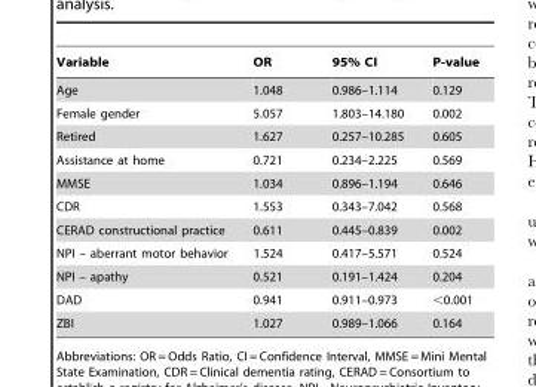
<table><thead><tr><td>Variable</td><td>OR</td><td>95% CI</td><td>P-value</td></tr></thead><tbody><tr><td>Age</td><td>1.048</td><td>0.986–1.114</td><td>0.129</td></tr><tr><td>Female gender</td><td>5.057</td><td>1.803–14.180</td><td>0.002</td></tr><tr><td>Retired</td><td>1.627</td><td>0.257–10.285</td><td>0.605</td></tr><tr><td>Assistance at home</td><td>0.721</td><td>0.234–2.225</td><td>0.569</td></tr><tr><td>MMSE</td><td>1.034</td><td>0.896–1.194</td><td>0.646</td></tr><tr><td>CDR</td><td>1.553</td><td>0.343–7.042</td><td>0.568</td></tr><tr><td>CERAD constructional practice</td><td>0.611</td><td>0.445–0.839</td><td>0.002</td></tr><tr><td>NPI – aberrant motor behavior</td><td>1.524</td><td>0.417–5.571</td><td>0.524</td></tr><tr><td>NPI – apathy</td><td>0.521</td><td>0.191–1.424</td><td>0.204</td></tr><tr><td>DAD</td><td>0.941</td><td>0.911–0.973</td><td>&lt;0.001</td></tr><tr><td>ZBI</td><td>1.027</td><td>0.989–1.066</td><td>0.164</td></tr></tbody></table>